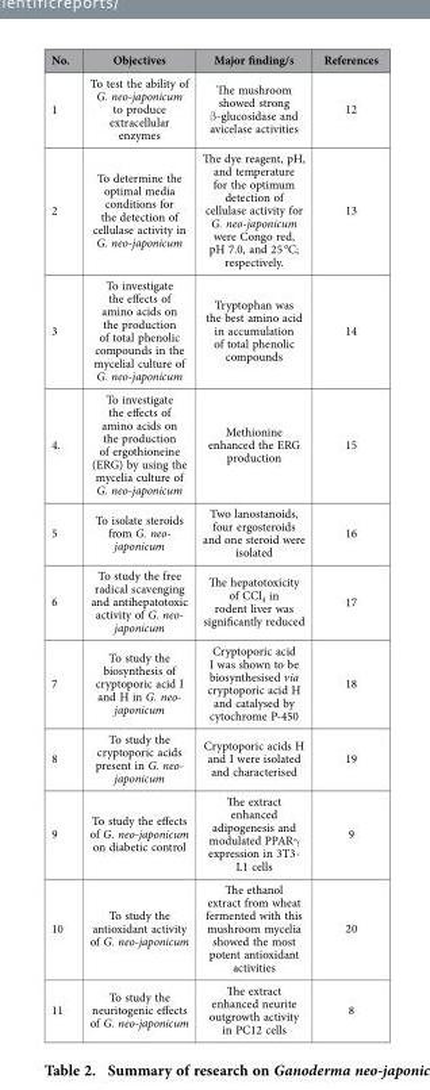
<table><thead><tr><td>No.</td><td>Objectives</td><td>Major finding/s</td><td>References</td></tr></thead><tbody><tr><td>1</td><td>To test the ability of G. neo-japonicum to produce extracellular enzymes</td><td>The mushroom showed strong β -glucosidase and avicelase activities</td><td>12</td></tr><tr><td>2</td><td>To determine the optimal media conditions for the detection of cellulase activity in G. neo-japonicum</td><td>The dye reagent, pH, and temperature for the optimum detection of cellulase activity for G. neo-japonicum were Congo red, pH 7.0, and 25 °C; respectively.</td><td>13</td></tr><tr><td>3</td><td>To investigate the effects of amino acids on the production of total phenolic compounds in the mycelial culture of G. neo-japonicum</td><td>Tryptophan was the best amino acid in accumulation of total phenolic compounds</td><td>14</td></tr><tr><td>4.</td><td>To investigate the effects of amino acids on the production of ergothioneine (ERG) by using the mycelia culture of G. neo-japonicum</td><td>Methionine enhanced the ERG production</td><td>15</td></tr><tr><td>5</td><td>To isolate steroids from G. neo- japonicum</td><td>Two lanostanoids, four ergosteroids and one steroid were isolated</td><td>16</td></tr><tr><td>6</td><td>To study the free radical scavenging and antihepatotoxic activity of G. neo- japonicum</td><td>The hepatotoxicity of CCl<sub>4</sub> in rodent liver was significantly reduced</td><td>17</td></tr><tr><td>7</td><td>To study the biosynthesis of cryptoporic acid I and H in G. neo- japonicum</td><td>Cryptoporic acid I was shown to be biosynthesised via cryptoporic acid H and catalysed by cytochrome P-450</td><td>18</td></tr><tr><td>8</td><td>To study the cryptoporic acids present in G. neo- japonicum</td><td>Cryptoporic acids H and I were isolated and characterised</td><td>19</td></tr><tr><td>9</td><td>To study the effects of G. neo-japonicum on diabetic control</td><td>The extract enhanced adipogenesis and modulated PPARγ expression in 3T3- L1 cells</td><td>9</td></tr><tr><td>10</td><td>To study the antioxidant activity of G. neo-japonicum</td><td>The ethanol extract from wheat fermented with this mushroom mycelia showed the most potent antioxidant activities</td><td>20</td></tr><tr><td>11</td><td>To study the neuritogenic effects of G. neo-japonicum</td><td>The extract enhanced neurite outgrowth activity in PC12 cells</td><td>8</td></tr></tbody></table>